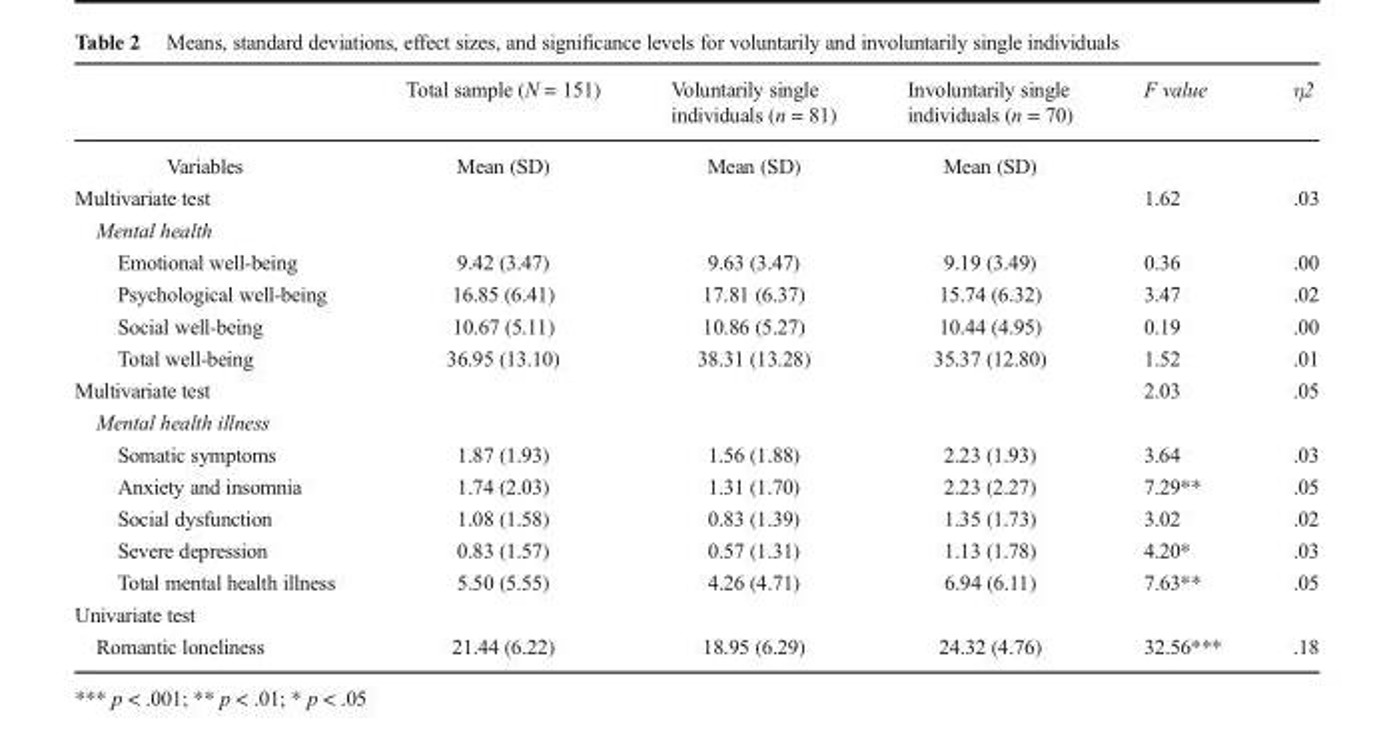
<table><thead><tr><td></td><td>Total sample (N = 151)</td><td>Voluntarily single individuals (n = 81)</td><td>Involuntarily single individuals (n = 70)</td><td>F value</td><td>η2</td></tr></thead><tbody><tr><td>Variables</td><td>Mean (SD)</td><td>Mean (SD)</td><td>Mean (SD)</td><td></td><td></td></tr><tr><td>Multivariate test</td><td></td><td></td><td></td><td>1.62</td><td>.03</td></tr><tr><td colspan="6">Mental health</td></tr><tr><td>Emotional well-being</td><td>9.42 (3.47)</td><td>9.63 (3.47)</td><td>9.19 (3.49)</td><td>0.36</td><td>.00</td></tr><tr><td>Psychological well-being</td><td>16.85 (6.41)</td><td>17.81 (6.37)</td><td>15.74 (6.32)</td><td>3.47</td><td>.02</td></tr><tr><td>Social well-being</td><td>10.67 (5.11)</td><td>10.86 (5.27)</td><td>10.44 (4.95)</td><td>0.19</td><td>.00</td></tr><tr><td>Total well-being</td><td>36.95 (13.10)</td><td>38.31 (13.28)</td><td>35.37 (12.80)</td><td>1.52</td><td>.01</td></tr><tr><td>Multivariate test</td><td></td><td></td><td></td><td>2.03</td><td>.05</td></tr><tr><td colspan="6">Mental health illness</td></tr><tr><td>Somatic symptoms</td><td>1.87 (1.93)</td><td>1.56 (1.88)</td><td>2.23 (1.93)</td><td>3.64</td><td>.03</td></tr><tr><td>Anxiety and insomnia</td><td>1.74 (2.03)</td><td>1.31 (1.70)</td><td>2.23 (2.27)</td><td>7.29**</td><td>.05</td></tr><tr><td>Social dysfunction</td><td>1.08 (1.58)</td><td>0.83 (1.39)</td><td>1.35 (1.73)</td><td>3.02</td><td>.02</td></tr><tr><td>Severe depression</td><td>0.83 (1.57)</td><td>0.57 (1.31)</td><td>1.13 (1.78)</td><td>4.20*</td><td>.03</td></tr><tr><td>Total mental health illness</td><td>5.50 (5.55)</td><td>4.26 (4.71)</td><td>6.94 (6.11)</td><td>7.63**</td><td>.05</td></tr><tr><td colspan="6">Univariate test</td></tr><tr><td>Romantic loneliness</td><td>21.44 (6.22)</td><td>18.95 (6.29)</td><td>24.32 (4.76)</td><td>32.56***</td><td>.18</td></tr></tbody></table>